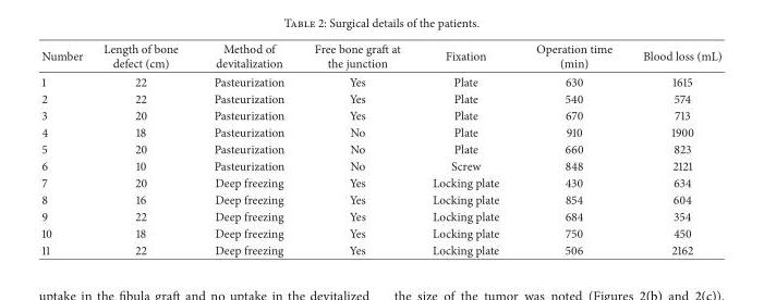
<table><thead><tr><td>Number</td><td>Length of bone defect (cm)</td><td>Method of devitalization</td><td>Free bone graft at the junction</td><td>Fixation</td><td>Operation time (min)</td><td>Blood loss (mL)</td></tr></thead><tbody><tr><td>1</td><td>22</td><td>Pasteurization</td><td>Yes</td><td>Plate</td><td>630</td><td>1615</td></tr><tr><td>2</td><td>22</td><td>Pasteurization</td><td>Yes</td><td>Plate</td><td>540</td><td>574</td></tr><tr><td>3</td><td>20</td><td>Pasteurization</td><td>Yes</td><td>Plate</td><td>670</td><td>713</td></tr><tr><td>4</td><td>18</td><td>Pasteurization</td><td>No</td><td>Plate</td><td>910</td><td>1900</td></tr><tr><td>5</td><td>20</td><td>Pasteurization</td><td>No</td><td>Plate</td><td>660</td><td>823</td></tr><tr><td>6</td><td>10</td><td>Pasteurization</td><td>No</td><td>Screw</td><td>848</td><td>2121</td></tr><tr><td>7</td><td>20</td><td>Deep freezing</td><td>Yes</td><td>Locking plate</td><td>430</td><td>634</td></tr><tr><td>8</td><td>16</td><td>Deep freezing</td><td>Yes</td><td>Locking plate</td><td>854</td><td>604</td></tr><tr><td>9</td><td>22</td><td>Deep freezing</td><td>Yes</td><td>Locking plate</td><td>684</td><td>354</td></tr><tr><td>10</td><td>18</td><td>Deep freezing</td><td>Yes</td><td>Locking plate</td><td>750</td><td>450</td></tr><tr><td>11</td><td>22</td><td>Deep freezing</td><td>Yes</td><td>Locking plate</td><td>506</td><td>2162</td></tr></tbody></table>